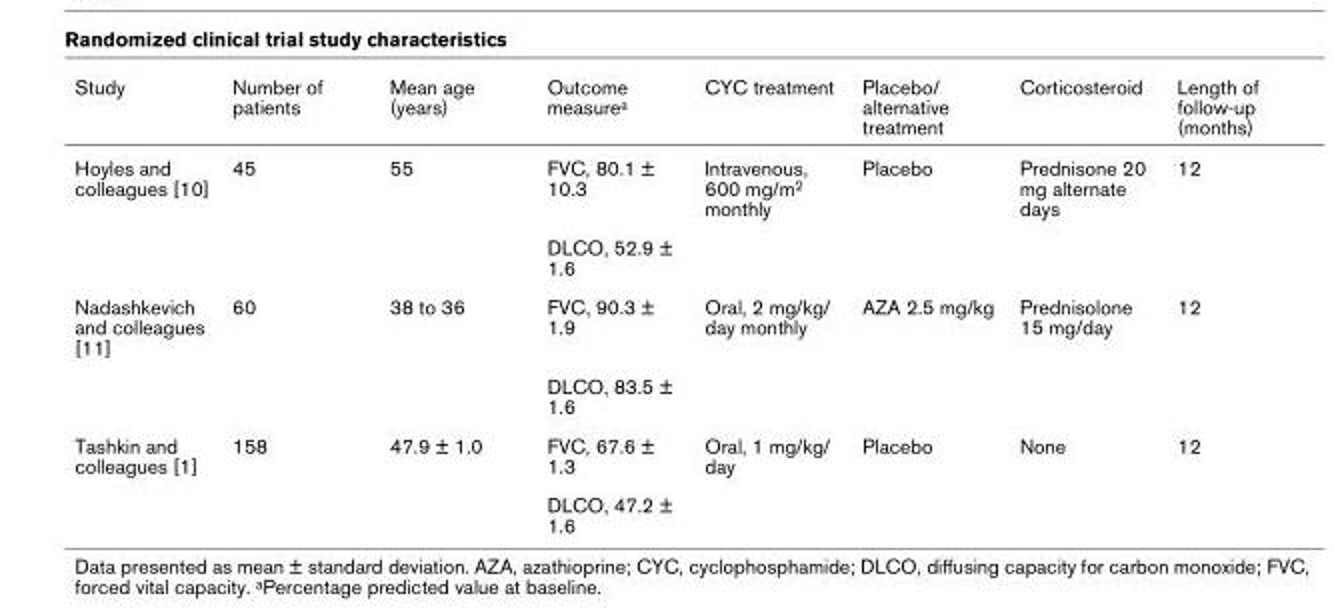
<table><thead><tr><td>Study</td><td>Number of patients</td><td>Mean age (years)</td><td>Outcome measure<sup>a</sup></td><td>CYC treatment</td><td>Placebo/ alternative treatment</td><td>Corticosteroid</td><td>Length of follow-up (months)</td></tr></thead><tbody><tr><td rowspan="2">Hoyles and colleagues [10]</td><td>45</td><td>55</td><td>FVC, 80.1 ± 10.3</td><td>Intravenous, 600 mg/m<sup>2</sup> monthly</td><td>Placebo</td><td>Prednisone 20 mg alternate days</td><td>12</td></tr><tr><td></td><td></td><td>DLCO, 52.9 ± 1.6</td><td></td><td></td><td></td><td></td></tr><tr><td rowspan="2">Nadashkevich and colleagues [11]</td><td>60</td><td>38 to 36</td><td>FVC, 90.3 ± 1.9</td><td>Oral, 2 mg/kg/ day monthly</td><td>AZA 2.5 mg/kg</td><td>Prednisolone 15 mg/day</td><td>12</td></tr><tr><td></td><td></td><td>DLCO, 83.5 ± 1.6</td><td></td><td></td><td></td><td></td></tr><tr><td rowspan="2">Tashkin and colleagues [1]</td><td>158</td><td>47.9 ± 1.0</td><td>FVC, 67.6 ± 1.3</td><td>Oral, 1 mg/kg/ day</td><td>Placebo</td><td>None</td><td>12</td></tr><tr><td></td><td></td><td>DLCO, 47.2 ± 1.6</td><td></td><td></td><td></td><td></td></tr></tbody></table>